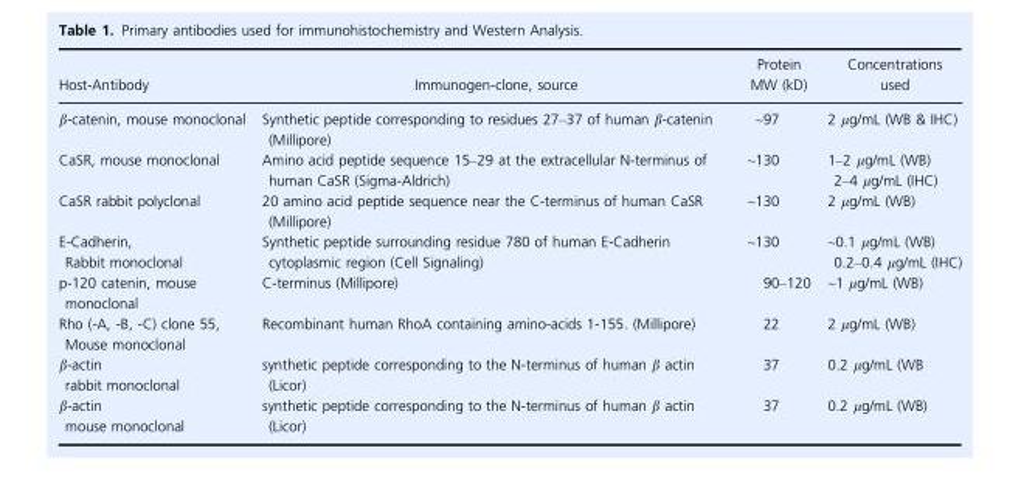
<table><thead><tr><td>Host-Antibody</td><td>Immunogen-clone, source</td><td>Protein MW (kD)</td><td>Concentrations used</td></tr></thead><tbody><tr><td>β-catenin, mouse monoclonal</td><td>Synthetic peptide corresponding to residues 27–37 of human β-catenin (Millipore)</td><td>~97</td><td>2 μg/mL (WB &amp; IHC)</td></tr><tr><td>CaSR, mouse monoclonal</td><td>Amino acid peptide sequence 15–29 at the extracellular N-terminus of human CaSR (Sigma-Aldrich)</td><td>~130</td><td>1–2 μg/mL (WB) 2–4 μg/mL (IHC)</td></tr><tr><td>CaSR rabbit polyclonal</td><td>20 amino acid peptide sequence near the C-terminus of human CaSR (Millipore)</td><td>~130</td><td>2 μg/mL (WB)</td></tr><tr><td>E-Cadherin, Rabbit monoclonal</td><td>Synthetic peptide surrounding residue 780 of human E-Cadherin cytoplasmic region (Cell Signaling)</td><td>~130</td><td>~0.1 μg/mL (WB) 0.2–0.4 μg/mL (IHC)</td></tr><tr><td>p-120 catenin, mouse monoclonal</td><td>C-terminus (Millipore)</td><td>90–120</td><td>~1 μg/mL (WB)</td></tr><tr><td>Rho (-A, -B, -C) clone 55, Mouse monoclonal</td><td>Recombinant human RhoA containing amino-acids 1-155. (Millipore)</td><td>22</td><td>2 μg/mL (WB)</td></tr><tr><td>β-actin rabbit monoclonal</td><td>synthetic peptide corresponding to the N-terminus of human β actin (Licor)</td><td>37</td><td>0.2 μg/mL (WB</td></tr><tr><td>β-actin mouse monoclonal</td><td>synthetic peptide corresponding to the N-terminus of human β actin (Licor)</td><td>37</td><td>0.2 μg/mL (WB)</td></tr></tbody></table>